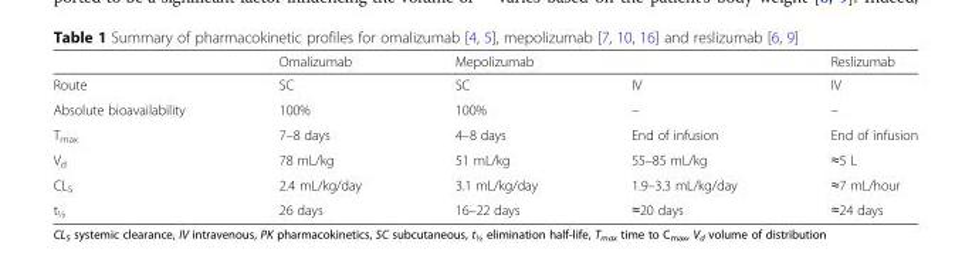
<table><thead><tr><td rowspan="2">Route</td><td rowspan="2">Omalizumab SC</td><td colspan="2">Mepolizumab</td><td rowspan="2">Reslizumab IV</td></tr><tr><td>SC</td><td>IV</td></tr></thead><tbody><tr><td>Absolute bioavailability</td><td>100%</td><td>100%</td><td>–</td><td>–</td></tr><tr><td>T<sub>max</sub></td><td>7–8 days</td><td>4–8 days</td><td>End of infusion</td><td>End of infusion</td></tr><tr><td>V<sub>d</sub></td><td>78 mL/kg</td><td>51 mL/kg</td><td>55–85 mL/kg</td><td>≈5 L</td></tr><tr><td>CL<sub>S</sub></td><td>2.4 mL/kg/day</td><td>3.1 mL/kg/day</td><td>1.9–3.3 mL/kg/day</td><td>≈7 mL/hour</td></tr><tr><td>t<sub>½</sub></td><td>26 days</td><td>16–22 days</td><td>≈20 days</td><td>≈24 days</td></tr></tbody></table>